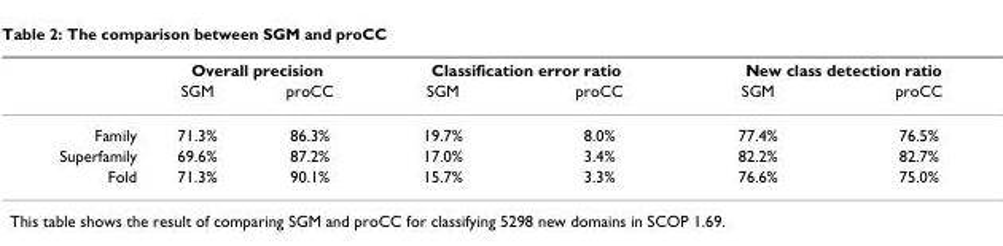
<table><thead><tr><td rowspan="2"></td><td colspan="2">Overall precision</td><td colspan="2">Classification error ratio</td><td colspan="2">New class detection ratio</td></tr><tr><td>SGM</td><td>proCC</td><td>SGM</td><td>proCC</td><td>SGM</td><td>proCC</td></tr></thead><tbody><tr><td>Family</td><td>71.3%</td><td>86.3%</td><td>19.7%</td><td>8.0%</td><td>77.4%</td><td>76.5%</td></tr><tr><td>Superfamily</td><td>69.6%</td><td>87.2%</td><td>17.0%</td><td>3.4%</td><td>82.2%</td><td>82.7%</td></tr><tr><td>Fold</td><td>71.3%</td><td>90.1%</td><td>15.7%</td><td>3.3%</td><td>76.6%</td><td>75.0%</td></tr></tbody></table>